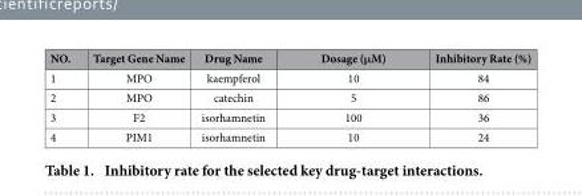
<table><thead><tr><td>NO.</td><td>Target Gene Name</td><td>Drug Name</td><td>Dosage (μM)</td><td>Inhibitory Rate (%)</td></tr></thead><tbody><tr><td>1</td><td>MPO</td><td>kaempferol</td><td>10</td><td>84</td></tr><tr><td>2</td><td>MPO</td><td>catechin</td><td>5</td><td>86</td></tr><tr><td>3</td><td>F2</td><td>isorhamnetin</td><td>100</td><td>36</td></tr><tr><td>4</td><td>PIM1</td><td>isorhamnetin</td><td>10</td><td>24</td></tr></tbody></table>